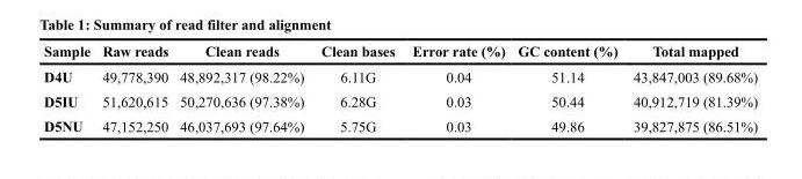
<table><thead><tr><td>Sample</td><td>Raw reads</td><td>Clean reads</td><td>Clean bases</td><td>Error rate (%)</td><td>GC content (%)</td><td>Total mapped</td></tr></thead><tbody><tr><td>D4U</td><td>49,778,390</td><td>48,892,317 (98.22%)</td><td>6.11G</td><td>0.04</td><td>51.14</td><td>43,847,003 (89.68%)</td></tr><tr><td>D5IU</td><td>51,620,615</td><td>50,270,636 (97.38%)</td><td>6.28G</td><td>0.03</td><td>50.44</td><td>40,912,719 (81.39%)</td></tr><tr><td>D5NU</td><td>47,152,250</td><td>46,037,693 (97.64%)</td><td>5.75G</td><td>0.03</td><td>49.86</td><td>39,827,875 (86.51%)</td></tr></tbody></table>